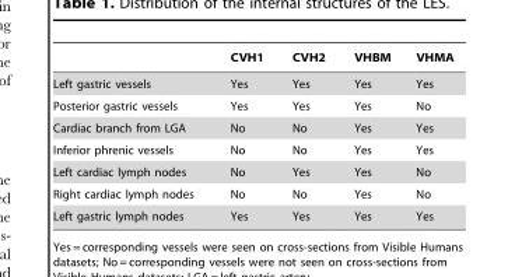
<table><thead><tr><td></td><td>CVH1</td><td>CVH2</td><td>VHBM</td><td>VHMA</td></tr></thead><tbody><tr><td>Left gastric vessels</td><td>Yes</td><td>Yes</td><td>Yes</td><td>Yes</td></tr><tr><td>Posterior gastric vessels</td><td>Yes</td><td>Yes</td><td>Yes</td><td>No</td></tr><tr><td>Cardiac branch from LGA</td><td>No</td><td>No</td><td>Yes</td><td>Yes</td></tr><tr><td>Inferior phrenic vessels</td><td>No</td><td>No</td><td>Yes</td><td>Yes</td></tr><tr><td>Left cardiac lymph nodes</td><td>No</td><td>Yes</td><td>Yes</td><td>No</td></tr><tr><td>Right cardiac lymph nodes</td><td>No</td><td>No</td><td>Yes</td><td>No</td></tr><tr><td>Left gastric lymph nodes</td><td>Yes</td><td>Yes</td><td>Yes</td><td>Yes</td></tr></tbody></table>